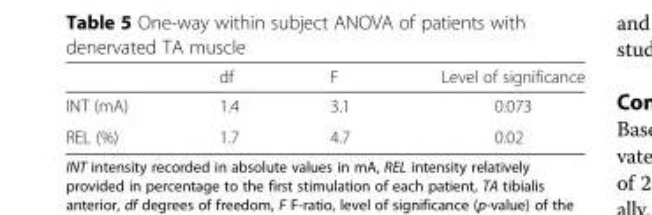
<table><thead><tr><td></td><td>df</td><td>F</td><td>Level of significance</td></tr></thead><tbody><tr><td>INT (mA)</td><td>1.4</td><td>3.1</td><td>0.073</td></tr><tr><td>REL (%)</td><td>1.7</td><td>4.7</td><td>0.02</td></tr></tbody></table>